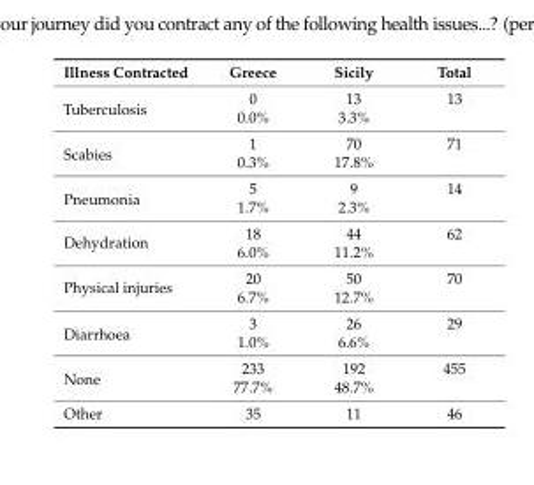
<table><thead><tr><td>Illness Contracted</td><td>Greece</td><td>Sicily</td><td>Total</td></tr></thead><tbody><tr><td rowspan="2">Tuberculosis</td><td>0</td><td>13</td><td>13</td></tr><tr><td>0.0%</td><td>3.3%</td><td></td></tr><tr><td rowspan="2">Scabies</td><td>1</td><td>70</td><td>71</td></tr><tr><td>0.3%</td><td>17.8%</td><td></td></tr><tr><td rowspan="2">Pneumonia</td><td>5</td><td>9</td><td>14</td></tr><tr><td>1.7%</td><td>2.3%</td><td></td></tr><tr><td rowspan="2">Dehydration</td><td>18</td><td>44</td><td>62</td></tr><tr><td>6.0%</td><td>11.2%</td><td></td></tr><tr><td rowspan="2">Physical injuries</td><td>20</td><td>50</td><td>70</td></tr><tr><td>6.7%</td><td>12.7%</td><td></td></tr><tr><td rowspan="2">Diarrhoea</td><td>3</td><td>26</td><td>29</td></tr><tr><td>1.0%</td><td>6.6%</td><td></td></tr><tr><td rowspan="2">None</td><td>233</td><td>192</td><td>455</td></tr><tr><td>77.7%</td><td>48.7%</td><td></td></tr><tr><td>Other</td><td>35</td><td>11</td><td>46</td></tr></tbody></table>